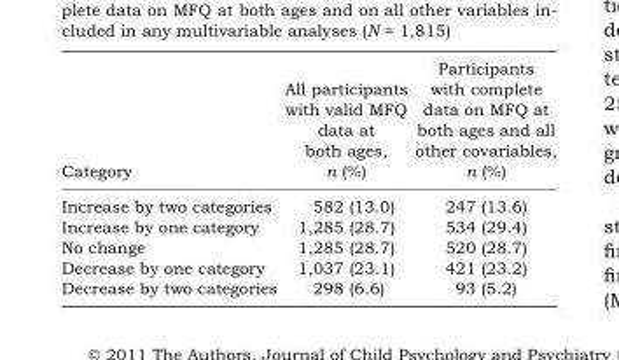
<table><thead><tr><td>Category</td><td>All participants with valid MFQ data at both ages, n (%)</td><td>Participants with complete data on MFQ at both ages and all other covariables, n (%)</td></tr></thead><tbody><tr><td>Increase by two categories</td><td>582 (13.0)</td><td>247 (13.6)</td></tr><tr><td>Increase by one category</td><td>1,285 (28.7)</td><td>534 (29.4)</td></tr><tr><td>No change</td><td>1,285 (28.7)</td><td>520 (28.7)</td></tr><tr><td>Decrease by one category</td><td>1,037 (23.1)</td><td>421 (23.2)</td></tr><tr><td>Decrease by two categories</td><td>298 (6.6)</td><td>93 (5.2)</td></tr></tbody></table>